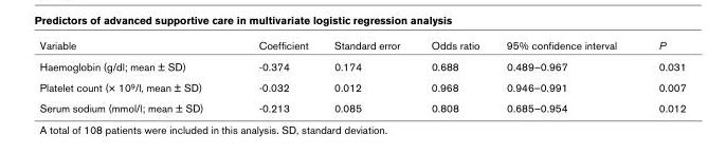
<table><thead><tr><td>Variable</td><td>Coefficient</td><td>Standard error</td><td>Odds ratio</td><td>95% confidence interval</td><td>P</td></tr></thead><tbody><tr><td>Haemoglobin (g/dl; mean ± SD)</td><td>-0.374</td><td>0.174</td><td>0.688</td><td>0.489–0.967</td><td>0.031</td></tr><tr><td>Platelet count (× 10<sup>9</sup>/l, mean ± SD)</td><td>-0.032</td><td>0.012</td><td>0.968</td><td>0.946–0.991</td><td>0.007</td></tr><tr><td>Serum sodium (mmol/l; mean ± SD)</td><td>-0.213</td><td>0.085</td><td>0.808</td><td>0.685–0.954</td><td>0.012</td></tr></tbody></table>